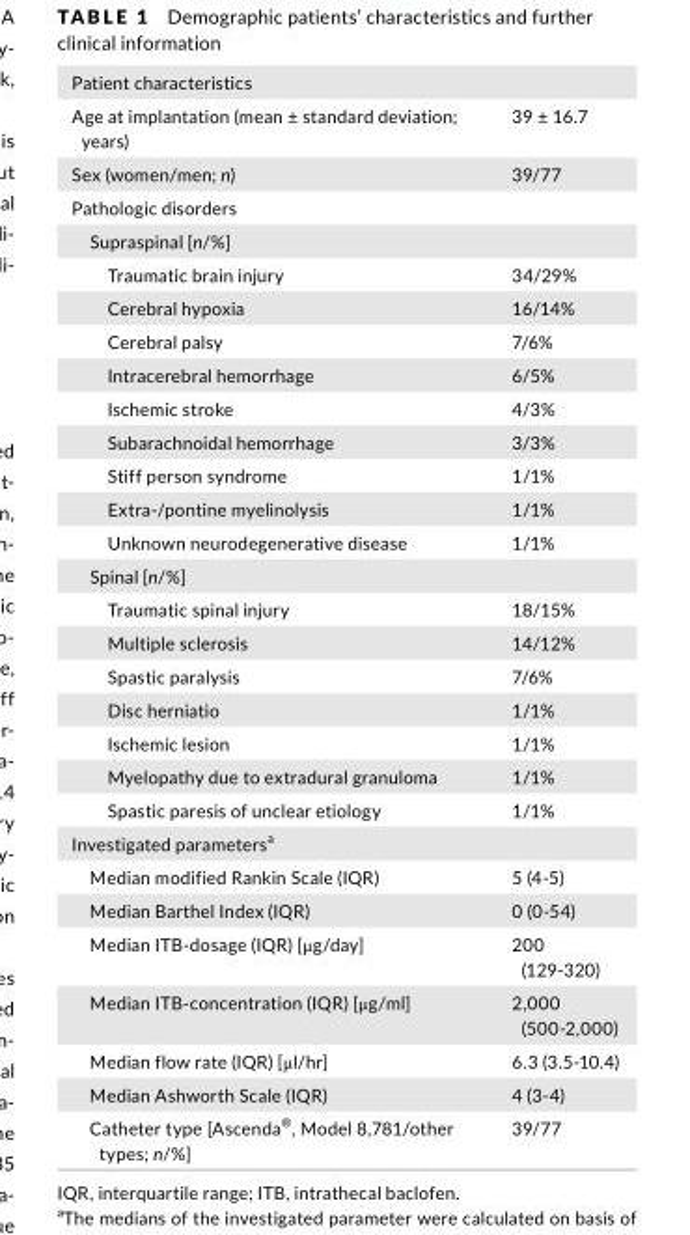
<table><tbody><tr><td colspan="2">Patient characteristics</td></tr><tr><td>Age at implantation (mean ± standard deviation; years)</td><td>39 ± 16.7</td></tr><tr><td>Sex (women/men; n)</td><td>39/77</td></tr><tr><td colspan="2">Pathologic disorders</td></tr><tr><td colspan="2">Supraspinal [n/%]</td></tr><tr><td>Traumatic brain injury</td><td>34/29%</td></tr><tr><td>Cerebral hypoxia</td><td>16/14%</td></tr><tr><td>Cerebral palsy</td><td>7/6%</td></tr><tr><td>Intracerebral hemorrhage</td><td>6/5%</td></tr><tr><td>Ischemic stroke</td><td>4/3%</td></tr><tr><td>Subarachnoidal hemorrhage</td><td>3/3%</td></tr><tr><td>Stiff person syndrome</td><td>1/1%</td></tr><tr><td>Extra- /pontine myelinolysis</td><td>1/1%</td></tr><tr><td>Unknown neurodegenerative disease</td><td>1/1%</td></tr><tr><td colspan="2">Spinal [n/%]</td></tr><tr><td>Traumatic spinal injury</td><td>18/15%</td></tr><tr><td>Multiple sclerosis</td><td>14/12%</td></tr><tr><td>Spastic paralysis</td><td>7/6%</td></tr><tr><td>Disc herniatio</td><td>1/1%</td></tr><tr><td>Ischemic lesion</td><td>1/1%</td></tr><tr><td>Myelopathy due to extradural granuloma</td><td>1/1%</td></tr><tr><td>Spastic paresis of unclear etiology</td><td>1/1%</td></tr><tr><td colspan="2">Investigated parameters<sup>a</sup></td></tr><tr><td>Median modified Rankin Scale (IQR)</td><td>5 (4- 5)</td></tr><tr><td>Median Barthel Index (IQR)</td><td>0 (0- 54)</td></tr><tr><td>Median ITB- dosage (IQR) [μg/day]</td><td>200 (129- 320)</td></tr><tr><td>Median ITB- concentration (IQR) [μg/ml]</td><td>2,000 (500- 2,000)</td></tr><tr><td>Median flow rate (IQR) [μl/hr]</td><td>6.3 (3.5- 10.4)</td></tr><tr><td>Median Ashworth Scale (IQR)</td><td>4 (3- 4)</td></tr><tr><td>Catheter type [Ascenda<sup>®</sup>, Model 8,781/other types; n/%]</td><td>39/77</td></tr></tbody></table>